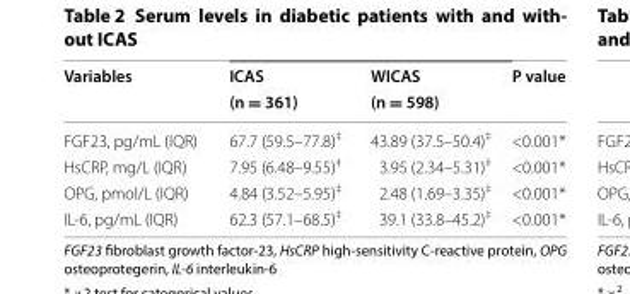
<table><thead><tr><td rowspan="2">Variables</td><td rowspan="2">ICAS (n = 361)</td><td rowspan="2">WICAS (n = 598)</td><td rowspan="2">P value</td></tr><tr></tr></thead><tbody><tr><td>FGF23, pg/mL (IQR)</td><td>67.7 (59.5–77.8)<sup>‡</sup></td><td>43.89 (37.5–50.4)<sup>‡</sup></td><td>&lt;0.001*</td></tr><tr><td>HsCRP, mg/L (IQR)</td><td>7.95 (6.48–9.55)<sup>‡</sup></td><td>3.95 (2.34–5.31)<sup>‡</sup></td><td>&lt;0.001*</td></tr><tr><td>OPG, pmol/L (IQR)</td><td>4.84 (3.52–5.95)<sup>‡</sup></td><td>2.48 (1.69–3.35)<sup>‡</sup></td><td>&lt;0.001*</td></tr><tr><td>IL-6, pg/mL (IQR)</td><td>62.3 (57.1–68.5)<sup>‡</sup></td><td>39.1 (33.8–45.2)<sup>‡</sup></td><td>&lt;0.001*</td></tr></tbody></table>